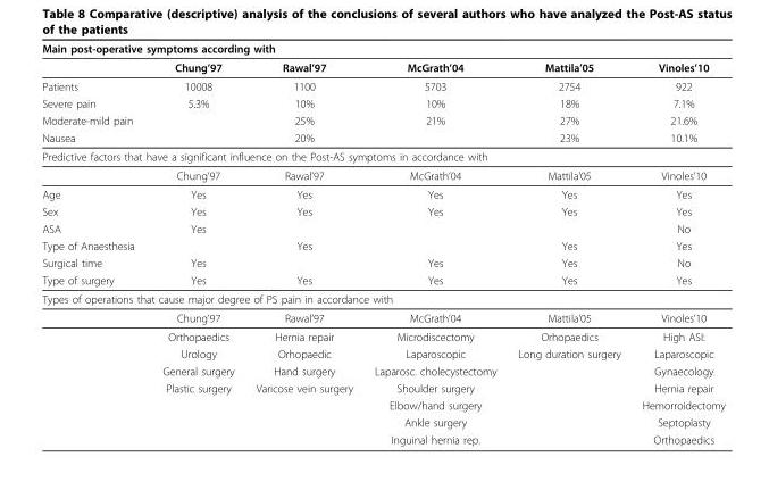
<table><thead><tr><td colspan="6">Main post-operative symptoms according with</td></tr><tr><td></td><td>Chung’97</td><td>Rawal’97</td><td>McGrath’04</td><td>Mattila’05</td><td>Vinoles’10</td></tr></thead><tbody><tr><td>Patients</td><td>10008</td><td>1100</td><td>5703</td><td>2754</td><td>922</td></tr><tr><td>Severe pain</td><td>5.3%</td><td>10%</td><td>10%</td><td>18%</td><td>7.1%</td></tr><tr><td>Moderate-mild pain</td><td></td><td>25%</td><td>21%</td><td>27%</td><td>21.6%</td></tr><tr><td>Nausea</td><td></td><td>20%</td><td></td><td>23%</td><td>10.1%</td></tr><tr><td colspan="6">Predictive factors that have a significant influence on the Post-AS symptoms in accordance with</td></tr><tr><td></td><td>Chung’97</td><td>Rawal’97</td><td>McGrath’04</td><td>Mattila’05</td><td>Vinoles’10</td></tr><tr><td>Age</td><td>Yes</td><td>Yes</td><td>Yes</td><td>Yes</td><td>Yes</td></tr><tr><td>Sex</td><td>Yes</td><td>Yes</td><td>Yes</td><td>Yes</td><td>Yes</td></tr><tr><td>ASA</td><td>Yes</td><td></td><td></td><td></td><td>No</td></tr><tr><td>Type of Anaesthesia</td><td></td><td>Yes</td><td></td><td>Yes</td><td>Yes</td></tr><tr><td>Surgical time</td><td>Yes</td><td></td><td>Yes</td><td>Yes</td><td>No</td></tr><tr><td>Type of surgery</td><td>Yes</td><td>Yes</td><td>Yes</td><td>Yes</td><td>Yes</td></tr><tr><td colspan="6">Types of operations that cause major degree of PS pain in accordance with</td></tr><tr><td></td><td>Chung’97</td><td>Rawal’97</td><td>McGrath’04</td><td>Mattila’05</td><td>Vinoles’10</td></tr><tr><td></td><td>Orthopaedics</td><td>Hernia repair</td><td>Microdiscectomy</td><td>Orhopaedics</td><td>High ASI:</td></tr><tr><td></td><td>Urology</td><td>Orhopaedic</td><td>Laparoscopic</td><td>Long duration surgery</td><td>Laparoscopic</td></tr><tr><td></td><td>General surgery</td><td>Hand surgery</td><td>Laparosc. cholecystectomy</td><td></td><td>Gynaecology</td></tr><tr><td></td><td>Plastic surgery</td><td>Varicose vein surgery</td><td>Shoulder surgery</td><td></td><td>Hernia repair</td></tr><tr><td></td><td></td><td></td><td>Elbow/hand surgery</td><td></td><td>Hemorroidectomy</td></tr><tr><td></td><td></td><td></td><td>Ankle surgery</td><td></td><td>Septoplasty</td></tr><tr><td></td><td></td><td></td><td>Inguinal hernia rep.</td><td></td><td>Orthopaedics</td></tr></tbody></table>